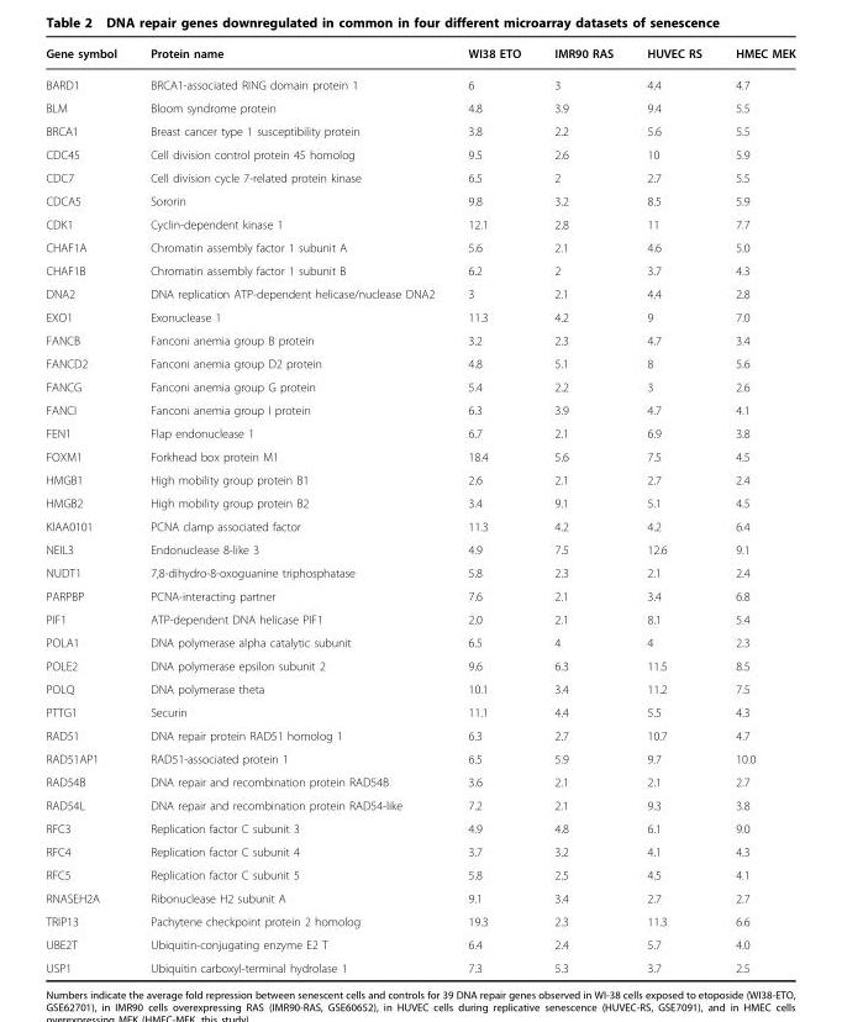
<table><thead><tr><td>Gene symbol</td><td>Protein name</td><td>WI38 ETO</td><td>IMR90 RAS</td><td>HUVEC RS</td><td>HMEC MEK</td></tr></thead><tbody><tr><td>BARD1</td><td>BRCA1-associated RING domain protein 1</td><td>6</td><td>3</td><td>4.4</td><td>4.7</td></tr><tr><td>BLM</td><td>Bloom syndrome protein</td><td>4.8</td><td>3.9</td><td>9.4</td><td>5.5</td></tr><tr><td>BRCA1</td><td>Breast cancer type 1 susceptibility protein</td><td>3.8</td><td>2.2</td><td>5.6</td><td>5.5</td></tr><tr><td>CDC45</td><td>Cell division control protein 45 homolog</td><td>9.5</td><td>2.6</td><td>10</td><td>5.9</td></tr><tr><td>CDC7</td><td>Cell division cycle 7-related protein kinase</td><td>6.5</td><td>2</td><td>2.7</td><td>5.5</td></tr><tr><td>CDCA5</td><td>Sororin</td><td>9.8</td><td>3.2</td><td>8.5</td><td>5.9</td></tr><tr><td>CDK1</td><td>Cyclin-dependent kinase 1</td><td>12.1</td><td>2.8</td><td>11</td><td>7.7</td></tr><tr><td>CHAF1A</td><td>Chromatin assembly factor 1 subunit A</td><td>5.6</td><td>2.1</td><td>4.6</td><td>5.0</td></tr><tr><td>CHAF1B</td><td>Chromatin assembly factor 1 subunit B</td><td>6.2</td><td>2</td><td>3.7</td><td>4.3</td></tr><tr><td>DNA2</td><td>DNA replication ATP-dependent helicase/nuclease DNA2</td><td>3</td><td>2.1</td><td>4.4</td><td>2.8</td></tr><tr><td>EXO1</td><td>Exonuclease 1</td><td>11.3</td><td>4.2</td><td>9</td><td>7.0</td></tr><tr><td>FANCB</td><td>Fanconi anemia group B protein</td><td>3.2</td><td>2.3</td><td>4.7</td><td>3.4</td></tr><tr><td>FANCD2</td><td>Fanconi anemia group D2 protein</td><td>4.8</td><td>5.1</td><td>8</td><td>5.6</td></tr><tr><td>FANCG</td><td>Fanconi anemia group G protein</td><td>5.4</td><td>2.2</td><td>3</td><td>2.6</td></tr><tr><td>FANCI</td><td>Fanconi anemia group I protein</td><td>6.3</td><td>3.9</td><td>4.7</td><td>4.1</td></tr><tr><td>FEN1</td><td>Flap endonuclease 1</td><td>6.7</td><td>2.1</td><td>6.9</td><td>3.8</td></tr><tr><td>FOXM1</td><td>Forkhead box protein M1</td><td>18.4</td><td>5.6</td><td>7.5</td><td>4.5</td></tr><tr><td>HMGB1</td><td>High mobility group protein B1</td><td>2.6</td><td>2.1</td><td>2.7</td><td>2.4</td></tr><tr><td>HMGB2</td><td>High mobility group protein B2</td><td>3.4</td><td>9.1</td><td>5.1</td><td>4.5</td></tr><tr><td>KIAA0101</td><td>PCNA clamp associated factor</td><td>11.3</td><td>4.2</td><td>4.2</td><td>6.4</td></tr><tr><td>NEIL3</td><td>Endonuclease 8-like 3</td><td>4.9</td><td>7.5</td><td>12.6</td><td>9.1</td></tr><tr><td>NUDT1</td><td>7,8-dihydro-8-oxoguanine triphosphatase</td><td>5.8</td><td>2.3</td><td>2.1</td><td>2.4</td></tr><tr><td>PARPBP</td><td>PCNA-interacting partner</td><td>7.6</td><td>2.1</td><td>3.4</td><td>6.8</td></tr><tr><td>PIF1</td><td>ATP-dependent DNA helicase PIF1</td><td>2.0</td><td>2.1</td><td>8.1</td><td>5.4</td></tr><tr><td>POLA1</td><td>DNA polymerase alpha catalytic subunit</td><td>6.5</td><td>4</td><td>4</td><td>2.3</td></tr><tr><td>POLE2</td><td>DNA polymerase epsilon subunit 2</td><td>9.6</td><td>6.3</td><td>11.5</td><td>8.5</td></tr><tr><td>POLQ</td><td>DNA polymerase theta</td><td>10.1</td><td>3.4</td><td>11.2</td><td>7.5</td></tr><tr><td>PTTG1</td><td>Securin</td><td>11.1</td><td>4.4</td><td>5.5</td><td>4.3</td></tr><tr><td>RAD51</td><td>DNA repair protein RAD51 homolog 1</td><td>6.3</td><td>2.7</td><td>10.7</td><td>4.7</td></tr><tr><td>RAD51AP1</td><td>RAD51-associated protein 1</td><td>6.5</td><td>5.9</td><td>9.7</td><td>10.0</td></tr><tr><td>RAD54B</td><td>DNA repair and recombination protein RAD54B</td><td>3.6</td><td>2.1</td><td>2.1</td><td>2.7</td></tr><tr><td>RAD54L</td><td>DNA repair and recombination protein RAD54-like</td><td>7.2</td><td>2.1</td><td>9.3</td><td>3.8</td></tr><tr><td>RFC3</td><td>Replication factor C subunit 3</td><td>4.9</td><td>4.8</td><td>6.1</td><td>9.0</td></tr><tr><td>RFC4</td><td>Replication factor C subunit 4</td><td>3.7</td><td>3.2</td><td>4.1</td><td>4.3</td></tr><tr><td>RFC5</td><td>Replication factor C subunit 5</td><td>5.8</td><td>2.5</td><td>4.5</td><td>4.1</td></tr><tr><td>RNASEH2A</td><td>Ribonuclease H2 subunit A</td><td>9.1</td><td>3.4</td><td>2.7</td><td>2.7</td></tr><tr><td>TRIP13</td><td>Pachytene checkpoint protein 2 homolog</td><td>19.3</td><td>2.3</td><td>11.3</td><td>6.6</td></tr><tr><td>UBE2T</td><td>Ubiquitin-conjugating enzyme E2 T</td><td>6.4</td><td>2.4</td><td>5.7</td><td>4.0</td></tr><tr><td>USP1</td><td>Ubiquitin carboxyl-terminal hydrolase 1</td><td>7.3</td><td>5.3</td><td>3.7</td><td>2.5</td></tr></tbody></table>